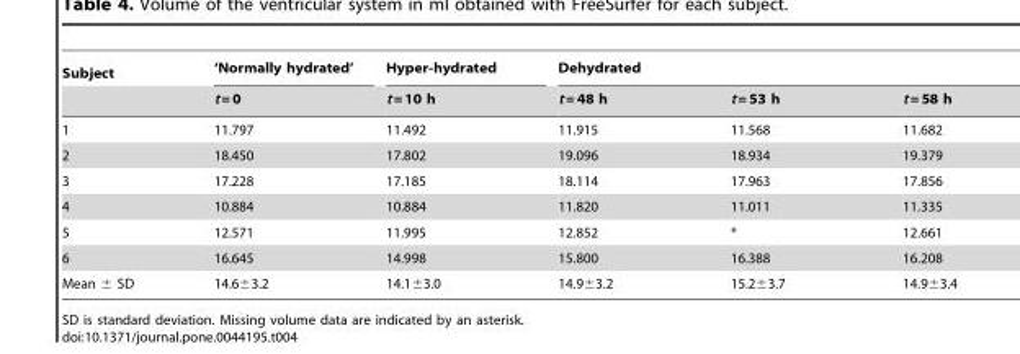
<table><thead><tr><td rowspan="2">Subject</td><td rowspan="2">‘Normally hydrated’ t = 0</td><td rowspan="2">Hyper-hydrated t = 10 h</td><td colspan="3">Dehydrated</td></tr><tr><td>t = 48 h</td><td>t = 53 h</td><td>t = 58 h</td></tr></thead><tbody><tr><td>1</td><td>11.797</td><td>11.492</td><td>11.915</td><td>11.568</td><td>11.682</td></tr><tr><td>2</td><td>18.450</td><td>17.802</td><td>19.096</td><td>18.934</td><td>19.379</td></tr><tr><td>3</td><td>17.228</td><td>17.185</td><td>18.114</td><td>17.963</td><td>17.856</td></tr><tr><td>4</td><td>10.884</td><td>10.884</td><td>11.820</td><td>11.011</td><td>11.335</td></tr><tr><td>5</td><td>12.571</td><td>11.995</td><td>12.852</td><td>*</td><td>12.661</td></tr><tr><td>6</td><td>16.645</td><td>14.998</td><td>15.800</td><td>16.388</td><td>16.208</td></tr><tr><td>Mean ± SD</td><td>14.6±3.2</td><td>14.1±3.0</td><td>14.9±3.2</td><td>15.2±3.7</td><td>14.9±3.4</td></tr></tbody></table>